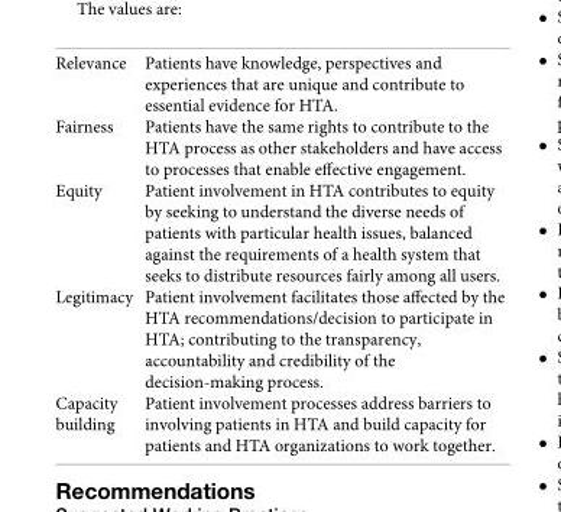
<table><tbody><tr><td>Relevance</td><td>Patients have knowledge, perspectives and experiences that are unique and contribute to essential evidence for HTA.</td></tr><tr><td>Fairness</td><td>Patients have the same rights to contribute to the HTA process as other stakeholders and have access to processes that enable effective engagement.</td></tr><tr><td>Equity</td><td>Patient involvement in HTA contributes to equity by seeking to understand the diverse needs of patients with particular health issues, balanced against the requirements of a health system that seeks to distribute resources fairly among all users.</td></tr><tr><td>Legitimacy</td><td>Patient involvement facilitates those affected by the HTA recommendations/decision to participate in HTA; contributing to the transparency, accountability and credibility of the decision-making process.</td></tr><tr><td>Capacity building</td><td>Patient involvement processes address barriers to involving patients in HTA and build capacity for patients and HTA organizations to work together.</td></tr></tbody></table>